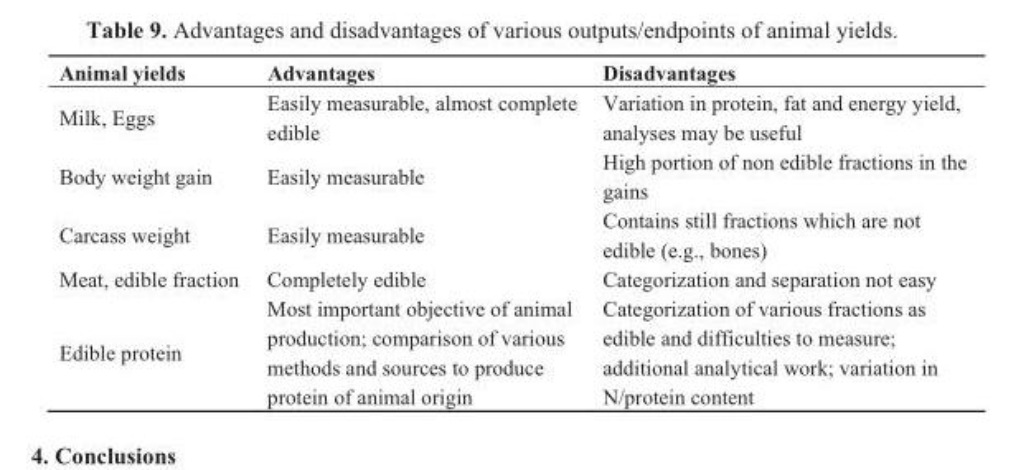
<table><thead><tr><td>Animal yields</td><td>Advantages</td><td>Disadvantages</td></tr></thead><tbody><tr><td>Milk, Eggs</td><td>Easily measurable, almost complete edible</td><td>Variation in protein, fat and energy yield, analyses may be useful</td></tr><tr><td>Body weight gain</td><td>Easily measurable</td><td>High portion of non edible fractions in the gains</td></tr><tr><td>Carcass weight</td><td>Easily measurable</td><td>Contains still fractions which are not edible (e.g., bones)</td></tr><tr><td>Meat, edible fraction</td><td>Completely edible</td><td>Categorization and separation not easy</td></tr><tr><td>Edible protein</td><td>Most important objective of animal production; comparison of various methods and sources to produce protein of animal origin</td><td>Categorization of various fractions as edible and difficulties to measure; additional analytical work; variation in N/protein content</td></tr></tbody></table>